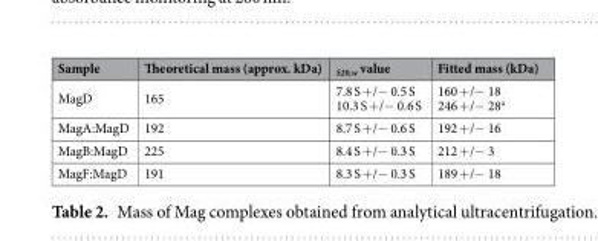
<table><thead><tr><td>Sample</td><td>Theoretical mass (approx. kDa)</td><td><sub>S20,w</sub> value</td><td>Fitted mass (kDa)</td></tr></thead><tbody><tr><td>MagD</td><td>165</td><td>7.8 S +/− 0.5 S 10.3 S +/− 0.6 S</td><td>160 +/− 18 246 +/− 28<sup>a</sup></td></tr><tr><td>MagA:MagD</td><td>192</td><td>8.7 S +/− 0.6 S</td><td>192 +/− 16</td></tr><tr><td>MagB:MagD</td><td>225</td><td>8.4 S +/− 0.3 S</td><td>212 +/− 3</td></tr><tr><td>MagF:MagD</td><td>191</td><td>8.3 S +/− 0.3 S</td><td>189 +/− 18</td></tr></tbody></table>